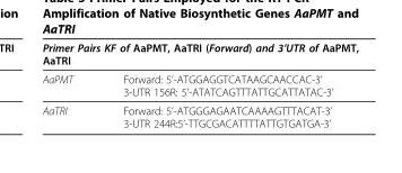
<table><thead><tr><td colspan="2">Primer Pairs KF of AaPMT, AaTRI (Forward) and 3’UTR of AaPMT, AaTRI</td></tr><tr><td>AaPMT</td><td>Forward: 5’-ATGGAGGTCATAAGCAACCAC-3’ 3-UTR 156R: 5’-ATATCAGTTTATTGCATTATAC-3’</td></tr></thead><tbody><tr><td>AaTRI</td><td>Forward: 5’-ATGGGAGAATCAAAAGTTTACAT-3’ 3-UTR 244R:5’-TTGCGACATTTTATTGTGATGA-3’</td></tr></tbody></table>